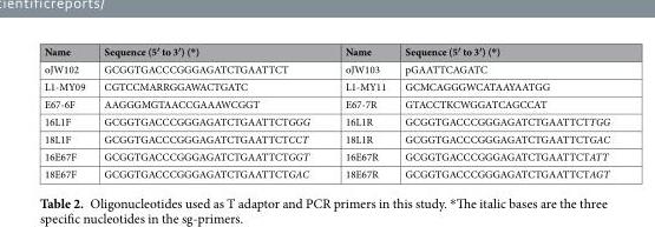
<table><thead><tr><td>Name</td><td>Sequence (5′ to 3′) (*)</td><td>Name</td><td>Sequence (5′ to 3′) (*)</td></tr></thead><tbody><tr><td>oJW102</td><td>GCGGTGACCCGGGAGATCTGAATTCT</td><td>oJW103</td><td>pGAATTCAGATC</td></tr><tr><td>L1-MY09</td><td>CGTCCMARRGGAWACTGATC</td><td>L1-MY11</td><td>GCMCAGGGWCATAAYAATGG</td></tr><tr><td>E67-6F</td><td>AAGGGMGTAACCGAAAWCGGT</td><td>E67-7R</td><td>GTACCTKCWGGATCAGCCAT</td></tr><tr><td>16L1F</td><td>GCGGTGACCCGGGAGATCTGAATTCTGGG</td><td>16L1R</td><td>GCGGTGACCCGGGAGATCTGAATTCTTGG</td></tr><tr><td>18L1F</td><td>GCGGTGACCCGGGAGATCTGAATTCTCCT</td><td>18L1R</td><td>GCGGTGACCCGGGAGATCTGAATTCTGAC</td></tr><tr><td>16E67F</td><td>GCGGTGACCCGGGAGATCTGAATTCTGGT</td><td>16E67R</td><td>GCGGTGACCCGGGAGATCTGAATTCTATT</td></tr><tr><td>18E67F</td><td>GCGGTGACCCGGGAGATCTGAATTCTGAC</td><td>18E67R</td><td>GCGGTGACCCGGGAGATCTGAATTCTAGT</td></tr></tbody></table>